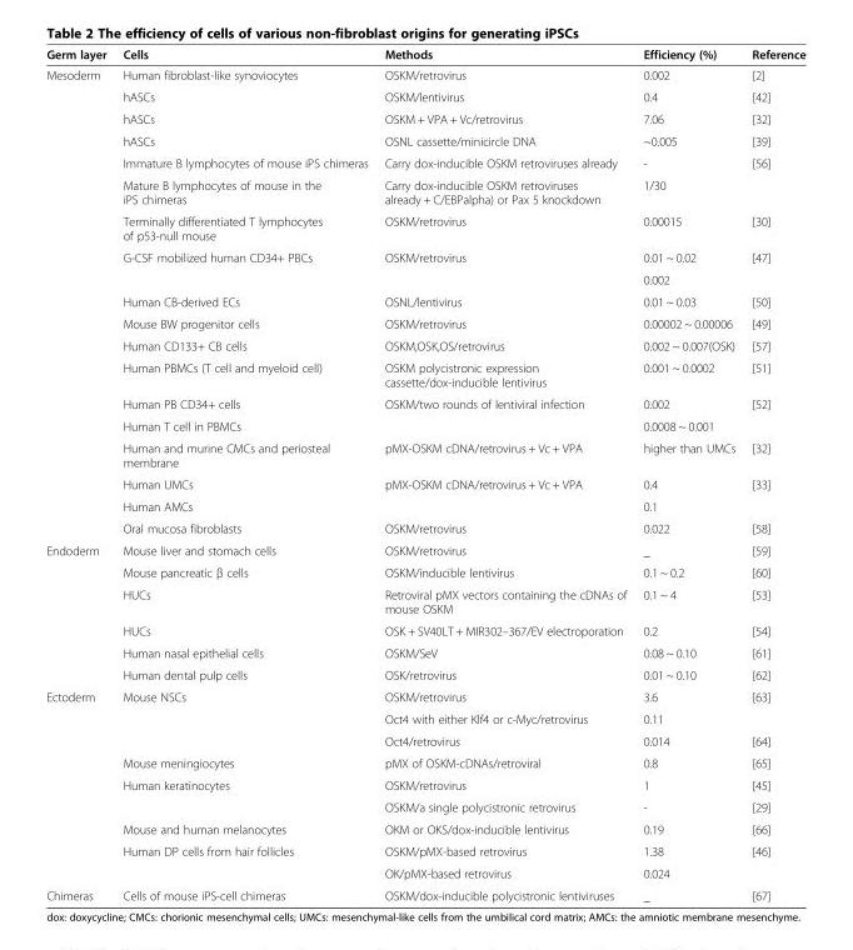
<table><thead><tr><td>Germ layer</td><td>Cells</td><td>Methods</td><td>Efficiency (%)</td><td>Reference</td></tr></thead><tbody><tr><td rowspan="19">Mesoderm</td><td>Human fibroblast-like synoviocytes</td><td>OSKM/retrovirus</td><td>0.002</td><td>[2]</td></tr><tr><td>hASCs</td><td>OSKM/lentivirus</td><td>0.4</td><td>[42]</td></tr><tr><td>hASCs</td><td>OSKM + VPA + Vc/retrovirus</td><td>7.06</td><td>[32]</td></tr><tr><td>hASCs</td><td>OSNL cassette/minicircle DNA</td><td>~0.005</td><td>[39]</td></tr><tr><td>Immature B lymphocytes of mouse iPS chimeras</td><td>Carry dox-inducible OSKM retroviruses already</td><td>-</td><td>[56]</td></tr><tr><td>Mature B lymphocytes of mouse in the iPS chimeras</td><td>Carry dox-inducible OSKM retroviruses already + C/EBPalpha) or Pax 5 knockdown</td><td>1/30</td><td></td></tr><tr><td>Terminally differentiated T lymphocytes of p53-null mouse</td><td>OSKM/retrovirus</td><td>0.00015</td><td>[30]</td></tr><tr><td rowspan="2">G-CSF mobilized human CD34+ PBCs</td><td rowspan="2">OSKM/retrovirus</td><td>0.01 ~ 0.02</td><td rowspan="2">[47]</td></tr><tr><td>0.002</td></tr><tr><td>Human CB-derived ECs</td><td>OSNL/lentivirus</td><td>0.01 ~ 0.03</td><td>[50]</td></tr><tr><td>Mouse BW progenitor cells</td><td>OSKM/retrovirus</td><td>0.00002 ~ 0.00006</td><td>[49]</td></tr><tr><td>Human CD133+ CB cells</td><td>OSKM,OSK,OS/retrovirus</td><td>0.002 ~ 0.007(OSK)</td><td>[57]</td></tr><tr><td>Human PBMCs (T cell and myeloid cell)</td><td>OSKM polycistronic expression cassette/dox-inducible lentivirus</td><td>0.001 ~ 0.0002</td><td>[51]</td></tr><tr><td>Human PB CD34+ cells</td><td rowspan="2">OSKM/two rounds of lentiviral infection</td><td>0.002</td><td rowspan="2">[52]</td></tr><tr><td>Human T cell in PBMCs</td><td>0.0008 ~ 0.001</td></tr><tr><td>Human and murine CMCs and periosteal membrane</td><td>pMX-OSKM cDNA/retrovirus + Vc + VPA</td><td>higher than UMCs</td><td>[32]</td></tr><tr><td>Human UMCs</td><td rowspan="2">pMX-OSKM cDNA/retrovirus + Vc + VPA</td><td>0.4</td><td rowspan="2">[33]</td></tr><tr><td>Human AMCs</td><td>0.1</td></tr><tr><td>Oral mucosa fibroblasts</td><td>OSKM/retrovirus</td><td>0.022</td><td>[58]</td></tr><tr><td rowspan="6">Endoderm</td><td>Mouse liver and stomach cells</td><td>OSKM/retrovirus</td><td>_</td><td>[59]</td></tr><tr><td>Mouse pancreatic β cells</td><td>OSKM/inducible lentivirus</td><td>0.1 ~ 0.2</td><td>[60]</td></tr><tr><td>HUCs</td><td>Retroviral pMX vectors containing the cDNAs of mouse OSKM</td><td>0.1 ~ 4</td><td>[53]</td></tr><tr><td>HUCs</td><td>OSK + SV40LT + MIR302–367/EV electroporation</td><td>0.2</td><td>[54]</td></tr><tr><td>Human nasal epithelial cells</td><td>OSKM/SeV</td><td>0.08 ~ 0.10</td><td>[61]</td></tr><tr><td>Human dental pulp cells</td><td>OSK/retrovirus</td><td>0.01 ~ 0.10</td><td>[62]</td></tr><tr><td rowspan="9">Ectoderm</td><td rowspan="3">Mouse NSCs</td><td>OSKM/retrovirus</td><td>3.6</td><td>[63]</td></tr><tr><td>Oct4 with either Klf4 or c-Myc/retrovirus</td><td>0.11</td><td></td></tr><tr><td>Oct4/retrovirus</td><td>0.014</td><td>[64]</td></tr><tr><td>Mouse meningiocytes</td><td>pMX of OSKM-cDNAs/retroviral</td><td>0.8</td><td>[65]</td></tr><tr><td>Human keratinocytes</td><td>OSKM/retrovirus</td><td>1</td><td>[45]</td></tr><tr><td></td><td>OSKM/a single polycistronic retrovirus</td><td>-</td><td>[29]</td></tr><tr><td>Mouse and human melanocytes</td><td>OKM or OKS/dox-inducible lentivirus</td><td>0.19</td><td>[66]</td></tr><tr><td rowspan="2">Human DP cells from hair follicles</td><td>OSKM/pMX-based retrovirus</td><td>1.38</td><td>[46]</td></tr><tr><td>OK/pMX-based retrovirus</td><td>0.024</td><td></td></tr><tr><td>Chimeras</td><td>Cells of mouse iPS-cell chimeras</td><td>OSKM/dox-inducible polycistronic lentiviruses</td><td>_</td><td>[67]</td></tr></tbody></table>